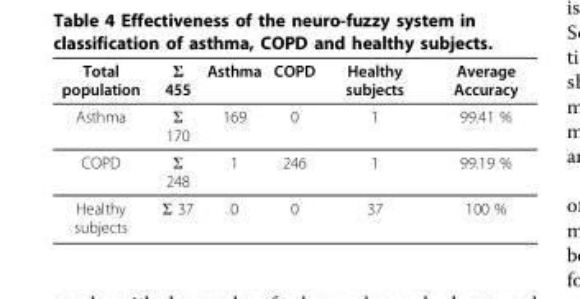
<table><thead><tr><td>Total population</td><td>Σ 455</td><td>Asthma</td><td>COPD</td><td>Healthy subjects</td><td>Average Accuracy</td></tr></thead><tbody><tr><td>Asthma</td><td>Σ 170</td><td>169</td><td>0</td><td>1</td><td>99.41 %</td></tr><tr><td>COPD</td><td>Σ 248</td><td>1</td><td>246</td><td>1</td><td>99.19 %</td></tr><tr><td>Healthy subjects</td><td>Σ 37</td><td>0</td><td>0</td><td>37</td><td>100 %</td></tr></tbody></table>